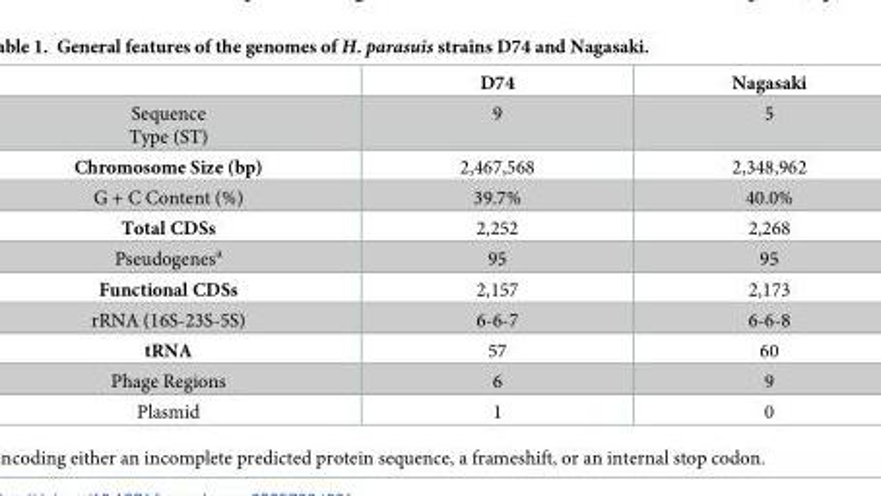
<table><thead><tr><td></td><td>D74</td><td>Nagasaki</td></tr></thead><tbody><tr><td>Sequence Type (ST)</td><td>9</td><td>5</td></tr><tr><td>Chromosome Size (bp)</td><td>2,467,568</td><td>2,348,962</td></tr><tr><td>G + C Content (%)</td><td>39.7%</td><td>40.0%</td></tr><tr><td>Total CDSs</td><td>2,252</td><td>2,268</td></tr><tr><td>Pseudogenes<sup>a</sup></td><td>95</td><td>95</td></tr><tr><td>Functional CDSs</td><td>2,157</td><td>2,173</td></tr><tr><td>rRNA (16S-23S-5S)</td><td>6-6-7</td><td>6-6-8</td></tr><tr><td>tRNA</td><td>57</td><td>60</td></tr><tr><td>Phage Regions</td><td>6</td><td>9</td></tr><tr><td>Plasmid</td><td>1</td><td>0</td></tr></tbody></table>